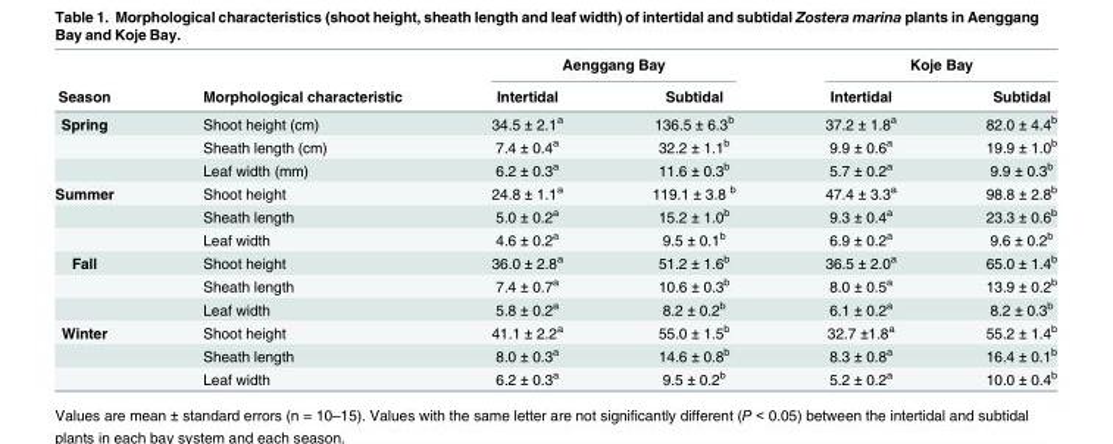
<table><thead><tr><td rowspan="2">Season</td><td rowspan="2">Morphological characteristic</td><td colspan="2">Aenggang Bay</td><td colspan="2">Koje Bay</td></tr><tr><td>Intertidal</td><td>Subtidal</td><td>Intertidal</td><td>Subtidal</td></tr></thead><tbody><tr><td rowspan="3">Spring</td><td>Shoot height (cm)</td><td>34.5 ± 2.1<sup>a</sup></td><td>136.5 ± 6.3<sup>b</sup></td><td>37.2 ± 1.8<sup>a</sup></td><td>82.0 ± 4.4<sup>b</sup></td></tr><tr><td>Sheath length (cm)</td><td>7.4 ± 0.4<sup>a</sup></td><td>32.2 ± 1.1<sup>b</sup></td><td>9.9 ± 0.6<sup>a</sup></td><td>19.9 ± 1.0<sup>b</sup></td></tr><tr><td>Leaf width (mm)</td><td>6.2 ± 0.3<sup>a</sup></td><td>11.6 ± 0.3<sup>b</sup></td><td>5.7 ± 0.2<sup>a</sup></td><td>9.9 ± 0.3<sup>b</sup></td></tr><tr><td rowspan="3">Summer</td><td>Shoot height</td><td>24.8 ± 1.1<sup>a</sup></td><td>119.1 ± 3.8 <sup>b</sup></td><td>47.4 ± 3.3<sup>a</sup></td><td>98.8 ± 2.8<sup>b</sup></td></tr><tr><td>Sheath length</td><td>5.0 ± 0.2<sup>a</sup></td><td>15.2 ± 1.0<sup>b</sup></td><td>9.3 ± 0.4<sup>a</sup></td><td>23.3 ± 0.6<sup>b</sup></td></tr><tr><td>Leaf width</td><td>4.6 ± 0.2<sup>a</sup></td><td>9.5 ± 0.1<sup>b</sup></td><td>6.9 ± 0.2<sup>a</sup></td><td>9.6 ± 0.2<sup>b</sup></td></tr><tr><td rowspan="3">Fall</td><td>Shoot height</td><td>36.0 ± 2.8<sup>a</sup></td><td>51.2 ± 1.6<sup>b</sup></td><td>36.5 ± 2.0<sup>a</sup></td><td>65.0 ± 1.4<sup>b</sup></td></tr><tr><td>Sheath length</td><td>7.4 ± 0.7<sup>a</sup></td><td>10.6 ± 0.3<sup>b</sup></td><td>8.0 ± 0.5<sup>a</sup></td><td>13.9 ± 0.2<sup>b</sup></td></tr><tr><td>Leaf width</td><td>5.8 ± 0.2<sup>a</sup></td><td>8.2 ± 0.2<sup>b</sup></td><td>6.1 ± 0.2<sup>a</sup></td><td>8.2 ± 0.3<sup>b</sup></td></tr><tr><td rowspan="3">Winter</td><td>Shoot height</td><td>41.1 ± 2.2<sup>a</sup></td><td>55.0 ± 1.5<sup>b</sup></td><td>32.7 ±1.8<sup>a</sup></td><td>55.2 ± 1.4<sup>b</sup></td></tr><tr><td>Sheath length</td><td>8.0 ± 0.3<sup>a</sup></td><td>14.6 ± 0.8<sup>b</sup></td><td>8.3 ± 0.8<sup>a</sup></td><td>16.4 ± 0.1<sup>b</sup></td></tr><tr><td>Leaf width</td><td>6.2 ± 0.3<sup>a</sup></td><td>9.5 ± 0.2<sup>b</sup></td><td>5.2 ± 0.2<sup>a</sup></td><td>10.0 ± 0.4<sup>b</sup></td></tr></tbody></table>